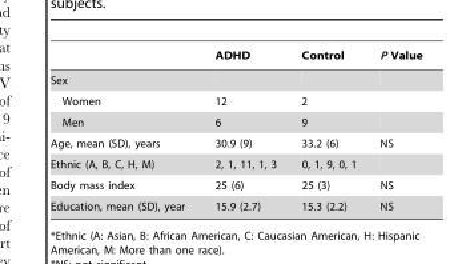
<table><thead><tr><td></td><td>ADHD</td><td>Control</td><td>P Value</td></tr></thead><tbody><tr><td colspan="4">Sex</td></tr><tr><td>Women</td><td>12</td><td>2</td><td></td></tr><tr><td>Men</td><td>6</td><td>9</td><td></td></tr><tr><td>Age, mean (SD), years</td><td>30.9 (9)</td><td>33.2 (6)</td><td>NS</td></tr><tr><td>Ethnic (A, B, C, H, M)</td><td>2, 1, 11, 1, 3</td><td>0, 1, 9, 0, 1</td><td></td></tr><tr><td>Body mass index</td><td>25 (6)</td><td>25 (3)</td><td>NS</td></tr><tr><td>Education, mean (SD), year</td><td>15.9 (2.7)</td><td>15.3 (2.2)</td><td>NS</td></tr></tbody></table>